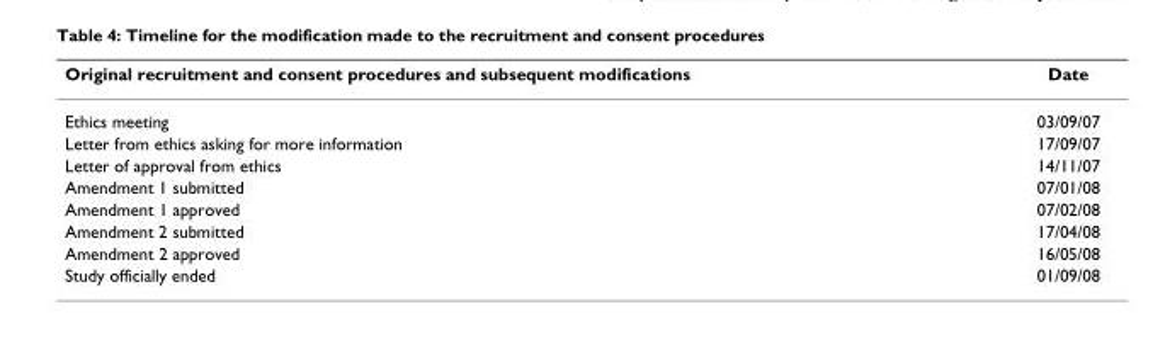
<table><thead><tr><td>Original recruitment and consent procedures and subsequent modifications</td><td>Date</td></tr></thead><tbody><tr><td>Ethics meeting</td><td>03/09/07</td></tr><tr><td>Letter from ethics asking for more information</td><td>17/09/07</td></tr><tr><td>Letter of approval from ethics</td><td>14/11/07</td></tr><tr><td>Amendment 1 submitted</td><td>07/01/08</td></tr><tr><td>Amendment 1 approved</td><td>07/02/08</td></tr><tr><td>Amendment 2 submitted</td><td>17/04/08</td></tr><tr><td>Amendment 2 approved</td><td>16/05/08</td></tr><tr><td>Study officially ended</td><td>01/09/08</td></tr></tbody></table>